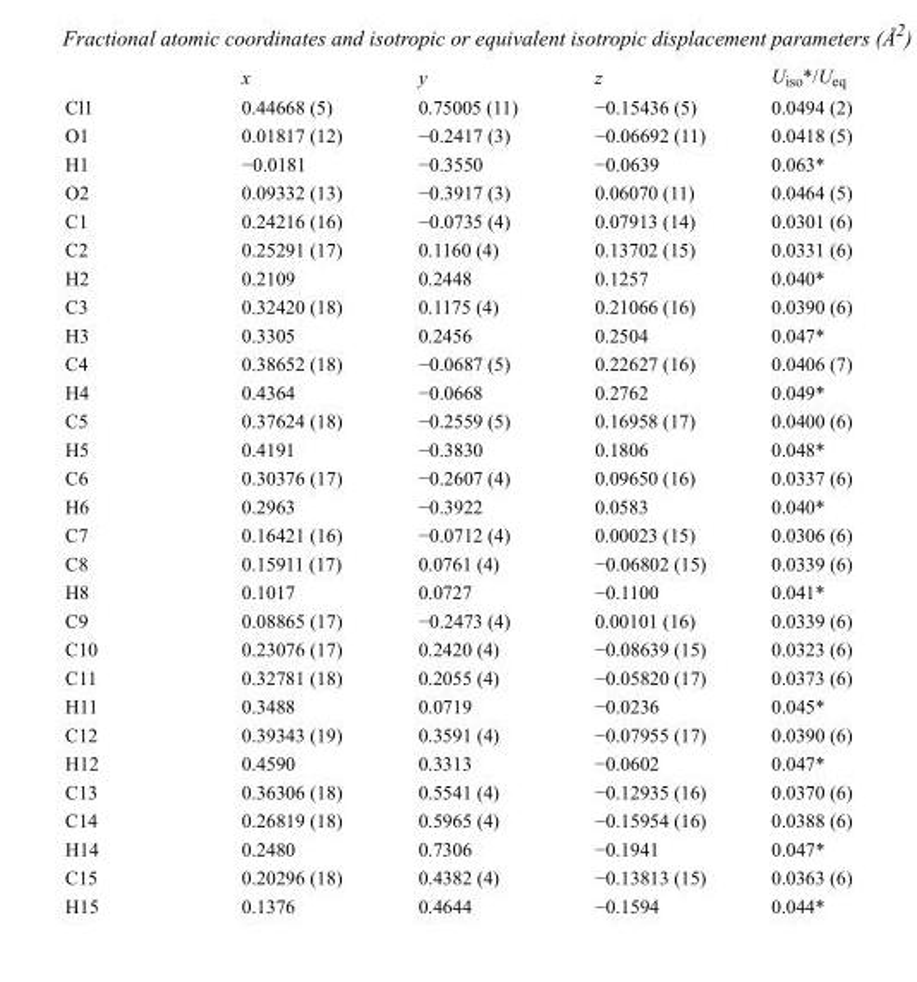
<table><thead><tr><td></td><td>x</td><td>y</td><td>z</td><td>U<sub>iso</sub>*/U<sub>eq</sub></td></tr></thead><tbody><tr><td>Cl1</td><td>0.44668 (5)</td><td>0.75005 (11)</td><td>−0.15436 (5)</td><td>0.0494 (2)</td></tr><tr><td>O1</td><td>0.01817 (12)</td><td>−0.2417 (3)</td><td>−0.06692 (11)</td><td>0.0418 (5)</td></tr><tr><td>H1</td><td>−0.0181</td><td>−0.3550</td><td>−0.0639</td><td>0.063*</td></tr><tr><td>O2</td><td>0.09332 (13)</td><td>−0.3917 (3)</td><td>0.06070 (11)</td><td>0.0464 (5)</td></tr><tr><td>C1</td><td>0.24216 (16)</td><td>−0.0735 (4)</td><td>0.07913 (14)</td><td>0.0301 (6)</td></tr><tr><td>C2</td><td>0.25291 (17)</td><td>0.1160 (4)</td><td>0.13702 (15)</td><td>0.0331 (6)</td></tr><tr><td>H2</td><td>0.2109</td><td>0.2448</td><td>0.1257</td><td>0.040*</td></tr><tr><td>C3</td><td>0.32420 (18)</td><td>0.1175 (4)</td><td>0.21066 (16)</td><td>0.0390 (6)</td></tr><tr><td>H3</td><td>0.3305</td><td>0.2456</td><td>0.2504</td><td>0.047*</td></tr><tr><td>C4</td><td>0.38652 (18)</td><td>−0.0687 (5)</td><td>0.22627 (16)</td><td>0.0406 (7)</td></tr><tr><td>H4</td><td>0.4364</td><td>−0.0668</td><td>0.2762</td><td>0.049*</td></tr><tr><td>C5</td><td>0.37624 (18)</td><td>−0.2559 (5)</td><td>0.16958 (17)</td><td>0.0400 (6)</td></tr><tr><td>H5</td><td>0.4191</td><td>−0.3830</td><td>0.1806</td><td>0.048*</td></tr><tr><td>C6</td><td>0.30376 (17)</td><td>−0.2607 (4)</td><td>0.09650 (16)</td><td>0.0337 (6)</td></tr><tr><td>H6</td><td>0.2963</td><td>−0.3922</td><td>0.0583</td><td>0.040*</td></tr><tr><td>C7</td><td>0.16421 (16)</td><td>−0.0712 (4)</td><td>0.00023 (15)</td><td>0.0306 (6)</td></tr><tr><td>C8</td><td>0.15911 (17)</td><td>0.0761 (4)</td><td>−0.06802 (15)</td><td>0.0339 (6)</td></tr><tr><td>H8</td><td>0.1017</td><td>0.0727</td><td>−0.1100</td><td>0.041*</td></tr><tr><td>C9</td><td>0.08865 (17)</td><td>−0.2473 (4)</td><td>0.00101 (16)</td><td>0.0339 (6)</td></tr><tr><td>C10</td><td>0.23076 (17)</td><td>0.2420 (4)</td><td>−0.08639 (15)</td><td>0.0323 (6)</td></tr><tr><td>C11</td><td>0.32781 (18)</td><td>0.2055 (4)</td><td>−0.05820 (17)</td><td>0.0373 (6)</td></tr><tr><td>H11</td><td>0.3488</td><td>0.0719</td><td>−0.0236</td><td>0.045*</td></tr><tr><td>C12</td><td>0.39343 (19)</td><td>0.3591 (4)</td><td>−0.07955 (17)</td><td>0.0390 (6)</td></tr><tr><td>H12</td><td>0.4590</td><td>0.3313</td><td>−0.0602</td><td>0.047*</td></tr><tr><td>C13</td><td>0.36306 (18)</td><td>0.5541 (4)</td><td>−0.12935 (16)</td><td>0.0370 (6)</td></tr><tr><td>C14</td><td>0.26819 (18)</td><td>0.5965 (4)</td><td>−0.15954 (16)</td><td>0.0388 (6)</td></tr><tr><td>H14</td><td>0.2480</td><td>0.7306</td><td>−0.1941</td><td>0.047*</td></tr><tr><td>C15</td><td>0.20296 (18)</td><td>0.4382 (4)</td><td>−0.13813 (15)</td><td>0.0363 (6)</td></tr><tr><td>H15</td><td>0.1376</td><td>0.4644</td><td>−0.1594</td><td>0.044*</td></tr></tbody></table>